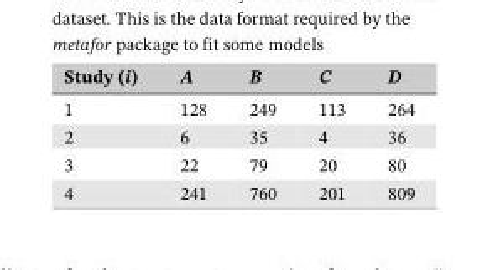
<table><thead><tr><td>Study (i)</td><td>A</td><td>B</td><td>C</td><td>D</td></tr></thead><tbody><tr><td>1</td><td>128</td><td>249</td><td>113</td><td>264</td></tr><tr><td>2</td><td>6</td><td>35</td><td>4</td><td>36</td></tr><tr><td>3</td><td>22</td><td>79</td><td>20</td><td>80</td></tr><tr><td>4</td><td>241</td><td>760</td><td>201</td><td>809</td></tr></tbody></table>